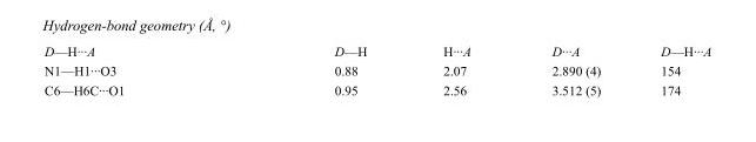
<table><tbody><tr><td>D—H···A</td><td>D—H</td><td>H···A</td><td>D···A</td><td>D—H···A</td></tr><tr><td>N1—H1···O3</td><td>0.88</td><td>2.07</td><td>2.890 (4)</td><td>154</td></tr><tr><td>C6—H6C···O1</td><td>0.95</td><td>2.56</td><td>3.512 (5)</td><td>174</td></tr></tbody></table>